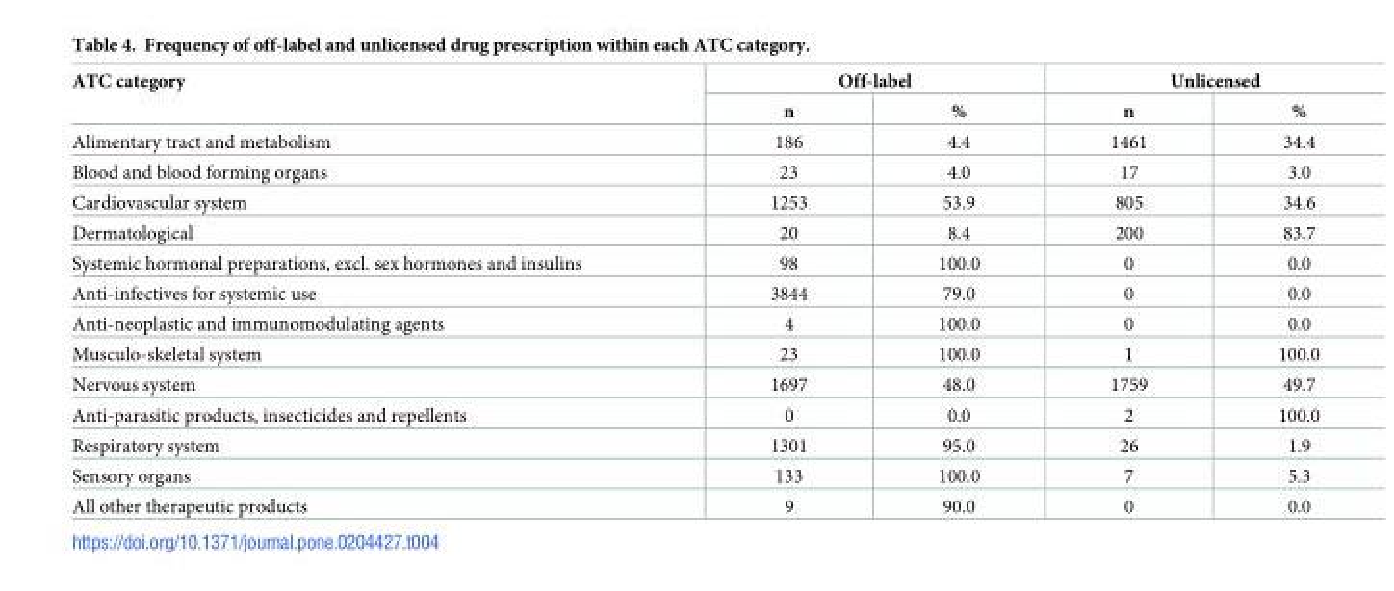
<table><thead><tr><td rowspan="2">ATC category</td><td colspan="2">Off-label</td><td colspan="2">Unlicensed</td></tr><tr><td>n</td><td>%</td><td>n</td><td>%</td></tr></thead><tbody><tr><td>Alimentary tract and metabolism</td><td>186</td><td>4.4</td><td>1461</td><td>34.4</td></tr><tr><td>Blood and blood forming organs</td><td>23</td><td>4.0</td><td>17</td><td>3.0</td></tr><tr><td>Cardiovascular system</td><td>1253</td><td>53.9</td><td>805</td><td>34.6</td></tr><tr><td>Dermatological</td><td>20</td><td>8.4</td><td>200</td><td>83.7</td></tr><tr><td>Systemic hormonal preparations, excl. sex hormones and insulins</td><td>98</td><td>100.0</td><td>0</td><td>0.0</td></tr><tr><td>Anti-infectives for systemic use</td><td>3844</td><td>79.0</td><td>0</td><td>0.0</td></tr><tr><td>Anti-neoplastic and immunomodulating agents</td><td>4</td><td>100.0</td><td>0</td><td>0.0</td></tr><tr><td>Musculo-skeletal system</td><td>23</td><td>100.0</td><td>1</td><td>100.0</td></tr><tr><td>Nervous system</td><td>1697</td><td>48.0</td><td>1759</td><td>49.7</td></tr><tr><td>Anti-parasitic products, insecticides and repellents</td><td>0</td><td>0.0</td><td>2</td><td>100.0</td></tr><tr><td>Respiratory system</td><td>1301</td><td>95.0</td><td>26</td><td>1.9</td></tr><tr><td>Sensory organs</td><td>133</td><td>100.0</td><td>7</td><td>5.3</td></tr><tr><td>All other therapeutic products</td><td>9</td><td>90.0</td><td>0</td><td>0.0</td></tr></tbody></table>